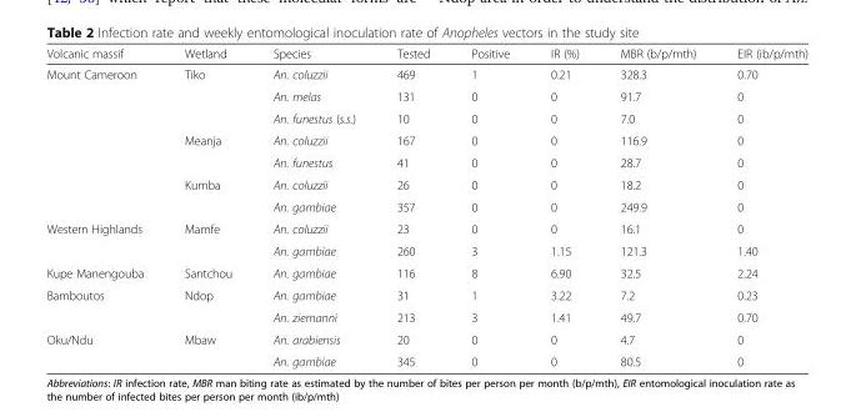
<table><thead><tr><td>Volcanic massif</td><td>Wetland</td><td>Species</td><td>Tested</td><td>Positive</td><td>IR (%)</td><td>MBR (b/p/mth)</td><td>EIR (ib/p/mth)</td></tr></thead><tbody><tr><td rowspan="7">Mount Cameroon</td><td rowspan="3">Tiko</td><td>An. coluzzii</td><td>469</td><td>1</td><td>0.21</td><td>328.3</td><td>0.70</td></tr><tr><td>An. melas</td><td>131</td><td>0</td><td>0</td><td>91.7</td><td>0</td></tr><tr><td>An. funestus (s.s.)</td><td>10</td><td>0</td><td>0</td><td>7.0</td><td>0</td></tr><tr><td rowspan="2">Meanja</td><td>An. coluzzii</td><td>167</td><td>0</td><td>0</td><td>116.9</td><td>0</td></tr><tr><td>An. funestus</td><td>41</td><td>0</td><td>0</td><td>28.7</td><td>0</td></tr><tr><td rowspan="2">Kumba</td><td>An. coluzzii</td><td>26</td><td>0</td><td>0</td><td>18.2</td><td>0</td></tr><tr><td>An. gambiae</td><td>357</td><td>0</td><td>0</td><td>249.9</td><td>0</td></tr><tr><td rowspan="2">Western Highlands</td><td rowspan="2">Mamfe</td><td>An. coluzzii</td><td>23</td><td>0</td><td>0</td><td>16.1</td><td>0</td></tr><tr><td>An. gambiae</td><td>260</td><td>3</td><td>1.15</td><td>121.3</td><td>1.40</td></tr><tr><td>Kupe Manengouba</td><td>Santchou</td><td>An. gambiae</td><td>116</td><td>8</td><td>6.90</td><td>32.5</td><td>2.24</td></tr><tr><td rowspan="2">Bamboutos</td><td rowspan="2">Ndop</td><td>An. gambiae</td><td>31</td><td>1</td><td>3.22</td><td>7.2</td><td>0.23</td></tr><tr><td>An. ziemanni</td><td>213</td><td>3</td><td>1.41</td><td>49.7</td><td>0.70</td></tr><tr><td rowspan="2">Oku/Ndu</td><td rowspan="2">Mbaw</td><td>An. arabiensis</td><td>20</td><td>0</td><td>0</td><td>4.7</td><td>0</td></tr><tr><td>An. gambiae</td><td>345</td><td>0</td><td>0</td><td>80.5</td><td>0</td></tr></tbody></table>